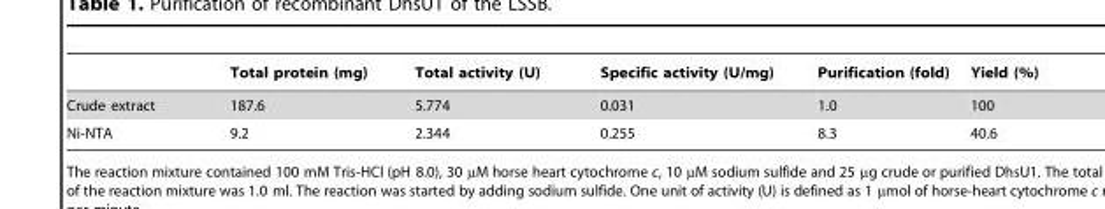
<table><thead><tr><td></td><td>Total protein (mg)</td><td>Total activity (U)</td><td>Specific activity (U/mg)</td><td>Purification (fold)</td><td>Yield (%)</td></tr></thead><tbody><tr><td>Crude extract</td><td>187.6</td><td>5.774</td><td>0.031</td><td>1.0</td><td>100</td></tr><tr><td>Ni-NTA</td><td>9.2</td><td>2.344</td><td>0.255</td><td>8.3</td><td>40.6</td></tr></tbody></table>